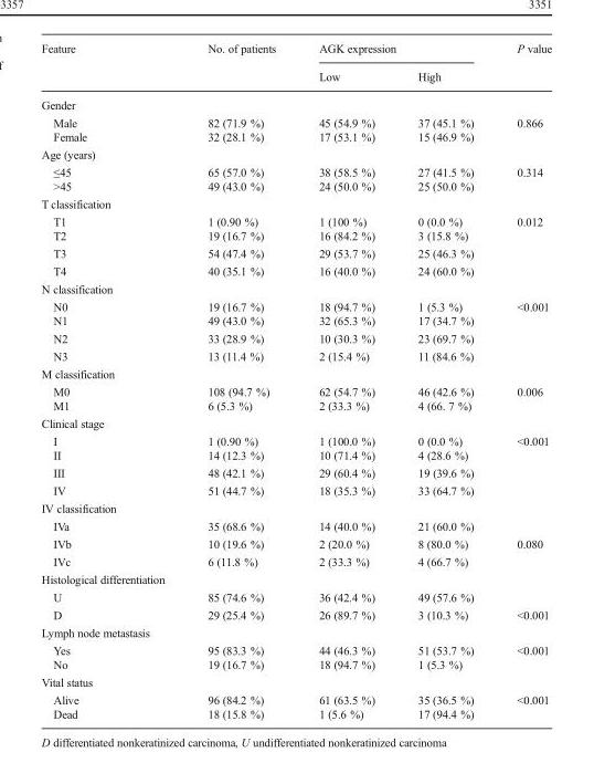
<table><thead><tr><td rowspan="2">Feature</td><td rowspan="2">No. of patients</td><td colspan="2">AGK expression</td><td rowspan="2">P value</td></tr><tr><td>Low</td><td>High</td></tr></thead><tbody><tr><td colspan="5">Gender</td></tr><tr><td>Male</td><td>82 (71.9 %)</td><td>45 (54.9 %)</td><td>37 (45.1 %)</td><td rowspan="2">0.866</td></tr><tr><td>Female</td><td>32 (28.1 %)</td><td>17 (53.1 %)</td><td>15 (46.9 %)</td></tr><tr><td colspan="5">Age (years)</td></tr><tr><td>≤45</td><td>65 (57.0 %)</td><td>38 (58.5 %)</td><td>27 (41.5 %)</td><td rowspan="2">0.314</td></tr><tr><td>&gt;45</td><td>49 (43.0 %)</td><td>24 (50.0 %)</td><td>25 (50.0 %)</td></tr><tr><td colspan="5">T classification</td></tr><tr><td>T1</td><td>1 (0.90 %)</td><td>1 (100 %)</td><td>0 (0.0 %)</td><td rowspan="4">0.012</td></tr><tr><td>T2</td><td>19 (16.7 %)</td><td>16 (84.2 %)</td><td>3 (15.8 %)</td></tr><tr><td>T3</td><td>54 (47.4 %)</td><td>29 (53.7 %)</td><td>25 (46.3 %)</td></tr><tr><td>T4</td><td>40 (35.1 %)</td><td>16 (40.0 %)</td><td>24 (60.0 %)</td></tr><tr><td colspan="5">N classification</td></tr><tr><td>N0</td><td>19 (16.7 %)</td><td>18 (94.7 %)</td><td>1 (5.3 %)</td><td rowspan="4">&lt;0.001</td></tr><tr><td>N1</td><td>49 (43.0 %)</td><td>32 (65.3 %)</td><td>17 (34.7 %)</td></tr><tr><td>N2</td><td>33 (28.9 %)</td><td>10 (30.3 %)</td><td>23 (69.7 %)</td></tr><tr><td>N3</td><td>13 (11.4 %)</td><td>2 (15.4 %)</td><td>11 (84.6 %)</td></tr><tr><td colspan="5">M classification</td></tr><tr><td>M0</td><td>108 (94.7 %)</td><td>62 (54.7 %)</td><td>46 (42.6 %)</td><td rowspan="2">0.006</td></tr><tr><td>M1</td><td>6 (5.3 %)</td><td>2 (33.3 %)</td><td>4 (66. 7 %)</td></tr><tr><td colspan="5">Clinical stage</td></tr><tr><td>I</td><td>1 (0.90 %)</td><td>1 (100.0 %)</td><td>0 (0.0 %)</td><td rowspan="3">&lt;0.001</td></tr><tr><td>II</td><td>14 (12.3 %)</td><td>10 (71.4 %)</td><td>4 (28.6 %)</td></tr><tr><td>III</td><td>48 (42.1 %)</td><td>29 (60.4 %)</td><td>19 (39.6 %)</td></tr><tr><td>IV</td><td>51 (44.7 %)</td><td>18 (35.3 %)</td><td>33 (64.7 %)</td><td></td></tr><tr><td colspan="5">IV classification</td></tr><tr><td>IVa</td><td>35 (68.6 %)</td><td>14 (40.0 %)</td><td>21 (60.0 %)</td><td></td></tr><tr><td>IVb</td><td>10 (19.6 %)</td><td>2 (20.0 %)</td><td>8 (80.0 %)</td><td>0.080</td></tr><tr><td>IVc</td><td>6 (11.8 %)</td><td>2 (33.3 %)</td><td>4 (66.7 %)</td><td></td></tr><tr><td colspan="5">Histological differentiation</td></tr><tr><td>U</td><td>85 (74.6 %)</td><td>36 (42.4 %)</td><td>49 (57.6 %)</td><td></td></tr><tr><td>D</td><td>29 (25.4 %)</td><td>26 (89.7 %)</td><td>3 (10.3 %)</td><td>&lt;0.001</td></tr><tr><td colspan="5">Lymph node metastasis</td></tr><tr><td>Yes</td><td>95 (83.3 %)</td><td>44 (46.3 %)</td><td>51 (53.7 %)</td><td rowspan="2">&lt;0.001</td></tr><tr><td>No</td><td>19 (16.7 %)</td><td>18 (94.7 %)</td><td>1 (5.3 %)</td></tr><tr><td colspan="5">Vital status</td></tr><tr><td>Alive</td><td>96 (84.2 %)</td><td>61 (63.5 %)</td><td>35 (36.5 %)</td><td rowspan="2">&lt;0.001</td></tr><tr><td>Dead</td><td>18 (15.8 %)</td><td>1 (5.6 %)</td><td>17 (94.4 %)</td></tr></tbody></table>